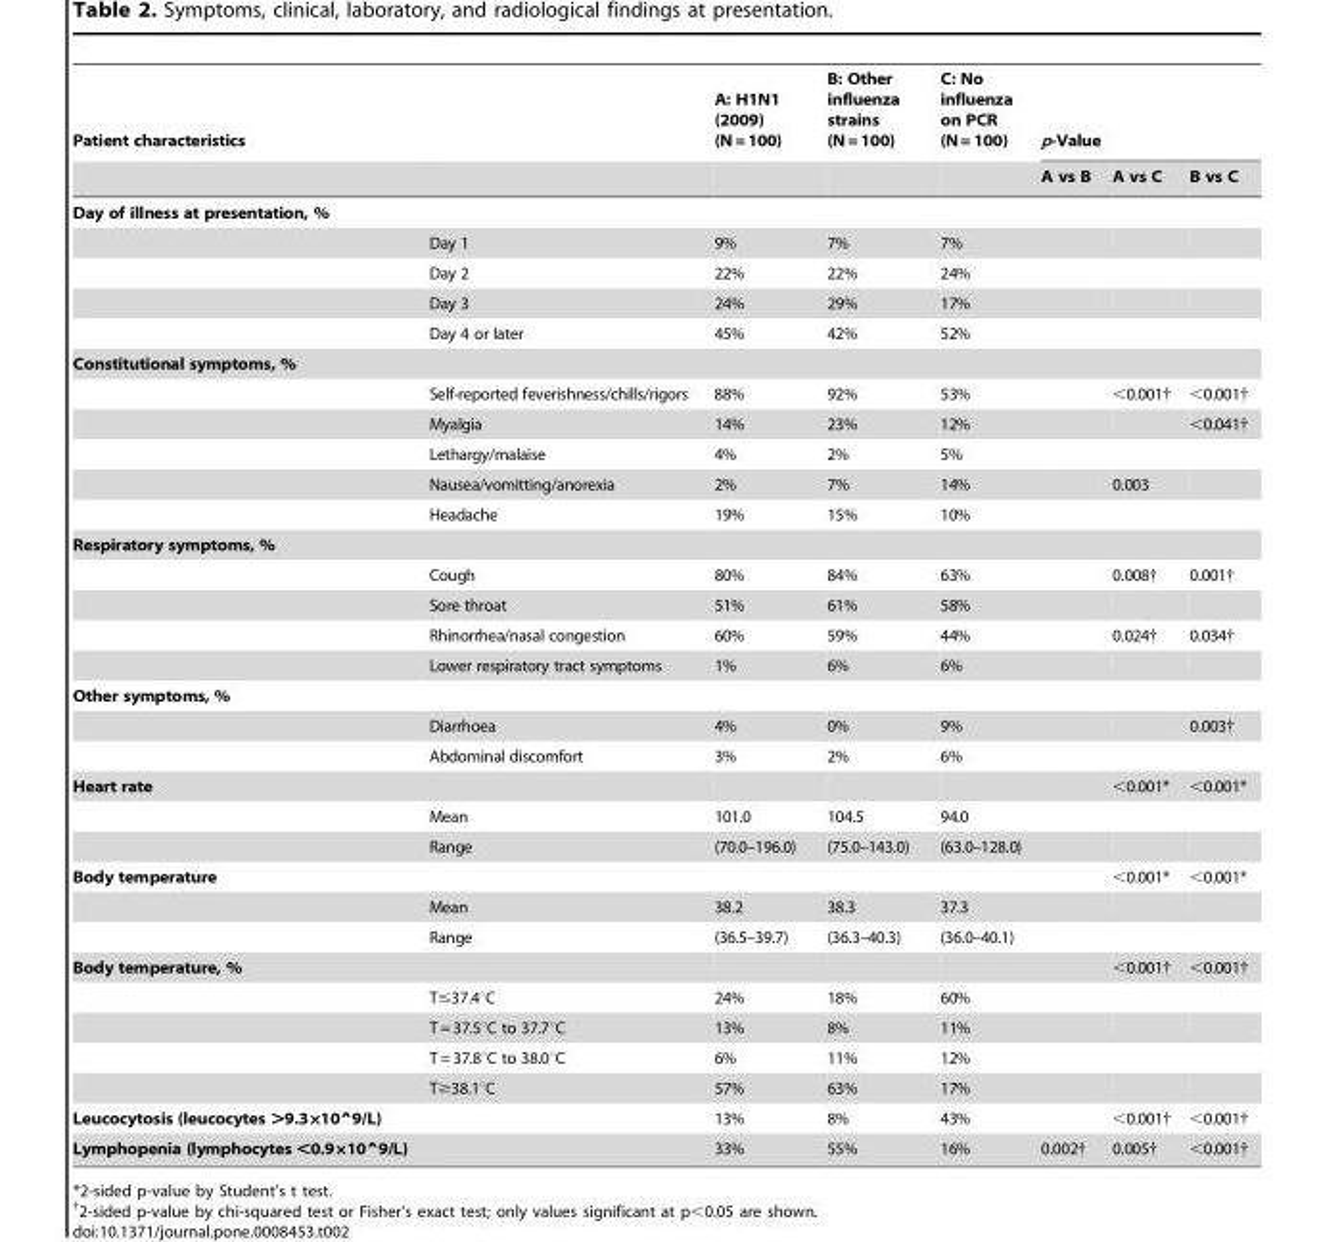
<table><thead><tr><td rowspan="2">Patient characteristics</td><td rowspan="2"></td><td rowspan="2">A: H1N1 (2009) (N =100)</td><td rowspan="2">B: Other influenza strains (N=100)</td><td rowspan="2">C: No influenza on PCR (N= 100)</td><td colspan="3">p-Value</td></tr><tr><td>A vs B</td><td>A vs C</td><td>B vs C</td></tr></thead><tbody><tr><td colspan="8">Day of illness at presentation, %</td></tr><tr><td></td><td>Day 1</td><td>9%</td><td>7%</td><td>7%</td><td></td><td></td><td></td></tr><tr><td></td><td>Day 2</td><td>22%</td><td>22%</td><td>24%</td><td></td><td></td><td></td></tr><tr><td></td><td>Day 3</td><td>24%</td><td>29%</td><td>17%</td><td></td><td></td><td></td></tr><tr><td></td><td>Day 4 or later</td><td>45%</td><td>42%</td><td>52%</td><td></td><td></td><td></td></tr><tr><td colspan="8">Constitutional symptoms, %</td></tr><tr><td></td><td>Self-reported feverishness/chills/rigors</td><td>88%</td><td>92%</td><td>53%</td><td></td><td>&lt;0.001†</td><td>&lt;0.001†</td></tr><tr><td></td><td>Myalgia</td><td>14%</td><td>23%</td><td>12%</td><td></td><td></td><td>&lt;0.041†</td></tr><tr><td></td><td>Lethargy/malaise</td><td>4%</td><td>2%</td><td>5%</td><td></td><td></td><td></td></tr><tr><td></td><td>Nausea/vomitting/anorexia</td><td>2%</td><td>7%</td><td>14%</td><td></td><td>0.003</td><td></td></tr><tr><td></td><td>Headache</td><td>19%</td><td>15%</td><td>10%</td><td></td><td></td><td></td></tr><tr><td colspan="8">Respiratory symptoms, %</td></tr><tr><td></td><td>Cough</td><td>80%</td><td>84%</td><td>63%</td><td></td><td>0.008†</td><td>0.001†</td></tr><tr><td></td><td>Sore throat</td><td>51%</td><td>61%</td><td>58%</td><td></td><td></td><td></td></tr><tr><td></td><td>Rhinorrhea/nasal congestion</td><td>60%</td><td>59%</td><td>44%</td><td></td><td>0.024†</td><td>0.034†</td></tr><tr><td></td><td>Lower respiratory tract symptoms</td><td>1%</td><td>6%</td><td>6%</td><td></td><td></td><td></td></tr><tr><td colspan="8">Other symptoms, %</td></tr><tr><td></td><td>Diarrhoea</td><td>4%</td><td>0%</td><td>9%</td><td></td><td></td><td>0.003†</td></tr><tr><td></td><td>Abdominal discomfort</td><td>3%</td><td>2%</td><td>6%</td><td></td><td></td><td></td></tr><tr><td rowspan="3">Heart rate</td><td></td><td></td><td></td><td></td><td></td><td>&lt;0.001*</td><td>&lt;0.001*</td></tr><tr><td>Mean</td><td>101.0</td><td>104.5</td><td>94.0</td><td></td><td></td><td></td></tr><tr><td>Range</td><td>(70.0–196.0)</td><td>(75.0–143.0)</td><td>(63.0–128.0)</td><td></td><td></td><td></td></tr><tr><td rowspan="3">Body temperature</td><td></td><td></td><td></td><td></td><td></td><td>&lt;0.001*</td><td>&lt;0.001*</td></tr><tr><td>Mean</td><td>38.2</td><td>38.3</td><td>37.3</td><td></td><td></td><td></td></tr><tr><td>Range</td><td>(36.5–39.7)</td><td>(36.3–40.3)</td><td>(36.0–40.1)</td><td></td><td></td><td></td></tr><tr><td rowspan="5">Body temperature, %</td><td></td><td></td><td></td><td></td><td></td><td>&lt;0.001†</td><td>&lt;0.001†</td></tr><tr><td>T≤37.4°C</td><td>24%</td><td>18%</td><td>60%</td><td></td><td></td><td></td></tr><tr><td>T=37.5°C to 37.7°C</td><td>13%</td><td>8%</td><td>11%</td><td></td><td></td><td></td></tr><tr><td>T=37.8°C to 38.0°C</td><td>6%</td><td>11%</td><td>12%</td><td></td><td></td><td></td></tr><tr><td>T≥38.1°C</td><td>57%</td><td>63%</td><td>17%</td><td></td><td></td><td></td></tr><tr><td>Leucocytosis (leucocytes .9.3610ˆ9/L)</td><td></td><td>13%</td><td>8%</td><td>43%</td><td></td><td>&lt;0.001†</td><td>&lt;0.001†</td></tr><tr><td>Lymphopenia (lymphocytes ,0.9610ˆ9/L)</td><td></td><td>33%</td><td>55%</td><td>16%</td><td>0.002†</td><td>0.005†</td><td>&lt;0.001†</td></tr></tbody></table>